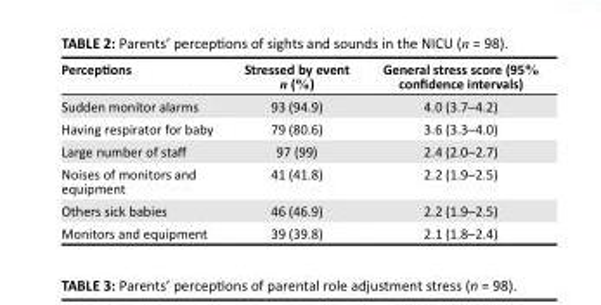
<table><thead><tr><td>Perceptions</td><td>Stressed by event n (%)</td><td>General stress score (95% confidence intervals)</td></tr></thead><tbody><tr><td>Sudden monitor alarms</td><td>93 (94.9)</td><td>4.0 (3.7–4.2)</td></tr><tr><td>Having respirator for baby</td><td>79 (80.6)</td><td>3.6 (3.3–4.0)</td></tr><tr><td>Large number of staff</td><td>97 (99)</td><td>2.4 (2.0–2.7)</td></tr><tr><td>Noises of monitors and equipment</td><td>41 (41.8)</td><td>2.2 (1.9–2.5)</td></tr><tr><td>Others sick babies</td><td>46 (46.9)</td><td>2.2 (1.9–2.5)</td></tr><tr><td>Monitors and equipment</td><td>39 (39.8)</td><td>2.1 (1.8–2.4)</td></tr></tbody></table>